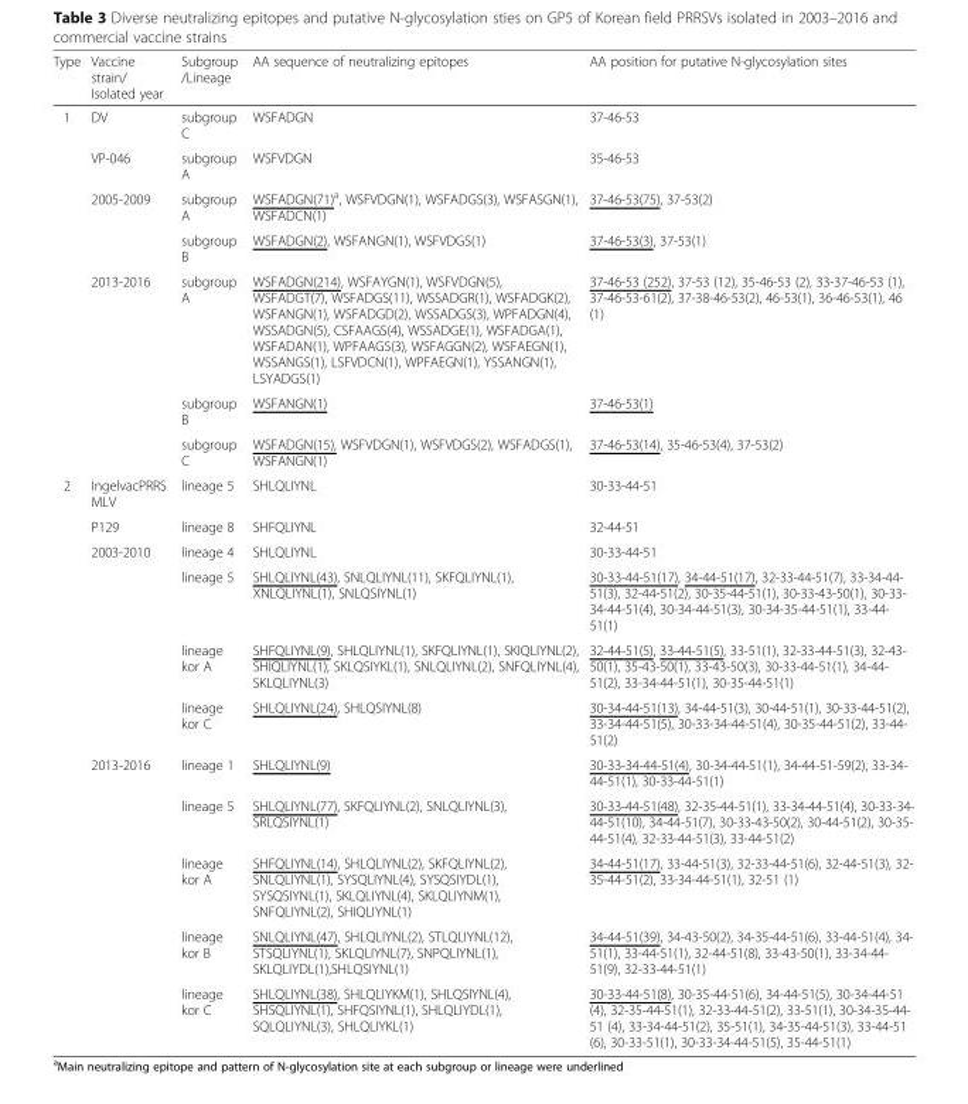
<table><thead><tr><td>Type</td><td>Vaccine strain/ Isolated year</td><td>Subgroup /Lineage</td><td>AA sequence of neutralizing epitopes</td><td>AA position for putative N-glycosylation sites</td></tr></thead><tbody><tr><td rowspan="7">1</td><td>DV</td><td>subgroup C</td><td>WSFADGN</td><td>37-46-53</td></tr><tr><td>VP-046</td><td>subgroup A</td><td>WSFVDGN</td><td>35-46-53</td></tr><tr><td rowspan="2">2005-2009</td><td>subgroup A</td><td>WSFADGN(71)<sup>a</sup>, WSFVDGN(1), WSFADGS(3), WSFASGN(1), WSFADCN(1)</td><td>37-46-53(75), 37-53(2)</td></tr><tr><td>subgroup B</td><td>WSFADGN(2), WSFANGN(1), WSFVDGS(1)</td><td>37-46-53(3), 37-53(1)</td></tr><tr><td rowspan="3">2013-2016</td><td>subgroup A</td><td>WSFADGN(214), WSFAYGN(1), WSFVDGN(5), WSFADGT(7), WSFADGS(11), WSSADGR(1), WSFADGK(2), WSFANGN(1), WSFADGD(2), WSSADGS(3), WPFADGN(4), WSSADGN(5), CSFAAGS(4), WSSADGE(1), WSFADGA(1), WSFADAN(1), WPFAAGS(3), WSFAGGN(2), WSFAEGN(1), WSSANGS(1), LSFVDCN(1), WPFAEGN(1), YSSANGN(1), LSYADGS(1)</td><td>37-46-53 (252), 37-53 (12), 35-46-53 (2), 33-37-46-53 (1), 37-46-53-61(2), 37-38-46-53(2), 46-53(1), 36-46-53(1), 46 (1)</td></tr><tr><td>subgroup B</td><td>WSFANGN(1)</td><td>37-46-53(1)</td></tr><tr><td>subgroup C</td><td>WSFADGN(15), WSFVDGN(1), WSFVDGS(2), WSFADGS(1), WSFANGN(1)</td><td>37-46-53(14), 35-46-53(4), 37-53(2)</td></tr><tr><td rowspan="11">2</td><td>IngelvacPRRS MLV</td><td>lineage 5</td><td>SHLQLIYNL</td><td>30-33-44-51</td></tr><tr><td>P129</td><td>lineage 8</td><td>SHFQLIYNL</td><td>32-44-51</td></tr><tr><td rowspan="4">2003-2010</td><td>lineage 4</td><td>SHLQLIYNL</td><td>30-33-44-51</td></tr><tr><td>lineage 5</td><td>SHLQLIYNL(43), SNLQLIYNL(11), SKFQLIYNL(1), XNLQLIYNL(1), SNLQSIYNL(1)</td><td>30-33-44-51(17), 34-44-51(17), 32-33-44-51(7), 33-34-44- 51(3), 32-44-51(2), 30-35-44-51(1), 30-33-43-50(1), 30-33- 34-44-51(4), 30-34-44-51(3), 30-34-35-44-51(1), 33-44- 51(1)</td></tr><tr><td>lineage kor A</td><td>SHFQLIYNL(9), SHLQLIYNL(1), SKFQLIYNL(1), SKIQLIYNL(2), SHIQLIYNL(1), SKLQSIYKL(1), SNLQLIYNL(2), SNFQLIYNL(4), SKLQLIYNL(3)</td><td>32-44-51(5), 33-44-51(5), 33-51(1), 32-33-44-51(3), 32-43- 50(1), 35-43-50(1), 33-43-50(3), 30-33-44-51(1), 34-44- 51(2), 33-34-44-51(1), 30-35-44-51(1)</td></tr><tr><td>lineage kor C</td><td>SHLQLIYNL(24), SHLQSIYNL(8)</td><td>30-34-44-51(13), 34-44-51(3), 30-44-51(1), 30-33-44-51(2), 33-34-44-51(5), 30-33-34-44-51(4), 30-35-44-51(2), 33-44- 51(2)</td></tr><tr><td rowspan="5">2013-2016</td><td>lineage 1</td><td>SHLQLIYNL(9)</td><td>30-33-34-44-51(4), 30-34-44-51(1), 34-44-51-59(2), 33-34- 44-51(1), 30-33-44-51(1)</td></tr><tr><td>lineage 5</td><td>SHLQLIYNL(77), SKFQLIYNL(2), SNLQLIYNL(3), SRLQSIYNL(1)</td><td>30-33-44-51(48), 32-35-44-51(1), 33-34-44-51(4), 30-33-34- 44-51(10), 34-44-51(7), 30-33-43-50(2), 30-44-51(2), 30-35- 44-51(4), 32-33-44-51(3), 33-44-51(2)</td></tr><tr><td>lineage kor A</td><td>SHFQLIYNL(14), SHLQLIYNL(2), SKFQLIYNL(2), SNLQLIYNL(1), SYSQLIYNL(4), SYSQSIYDL(1), SYSQSIYNL(1), SKLQLIYNL(4), SKLQLIYNM(1), SNFQLIYNL(2), SHIQLIYNL(1)</td><td>34-44-51(17), 33-44-51(3), 32-33-44-51(6), 32-44-51(3), 32- 35-44-51(2), 33-34-44-51(1), 32-51 (1)</td></tr><tr><td>lineage kor B</td><td>SNLQLIYNL(47), SHLQLIYNL(2), STLQLIYNL(12), STSQLIYNL(1), SKLQLIYNL(7), SNPQLIYNL(1), SKLQLIYDL(1),SHLQSIYNL(1)</td><td>34-44-51(39), 34-43-50(2), 34-35-44-51(6), 33-44-51(4), 34- 51(1), 33-44-51(1), 32-44-51(8), 33-43-50(1), 33-34-44- 51(9), 32-33-44-51(1)</td></tr><tr><td>lineage kor C</td><td>SHLQLIYNL(38), SHLQLIYKM(1), SHLQSIYNL(4), SHSQLIYNL(1), SHFQSIYNL(1), SHLQLIYDL(1), SQLQLIYNL(3), SHLQLIYKL(1)</td><td>30-33-44-51(8), 30-35-44-51(6), 34-44-51(5), 30-34-44-51 (4), 32-35-44-51(1), 32-33-44-51(2), 33-51(1), 30-34-35-44- 51 (4), 33-34-44-51(2), 35-51(1), 34-35-44-51(3), 33-44-51 (6), 30-33-51(1), 30-33-34-44-51(5), 35-44-51(1)</td></tr></tbody></table>